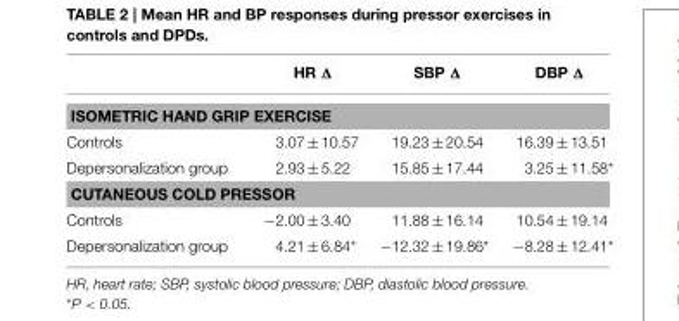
<table><thead><tr><td></td><td>HR Δ</td><td>SBP Δ</td><td>DBP Δ</td></tr></thead><tbody><tr><td colspan="4">ISOMETRIC HAND GRIP EXERCISE</td></tr><tr><td>Controls</td><td>3.07 ± 10.57</td><td>19.23 ± 20.54</td><td>16.39 ± 13.51</td></tr><tr><td>Depersonalization group</td><td>2.93 ± 5.22</td><td>15.85 ± 17.44</td><td>3.25 ± 11.58*</td></tr><tr><td colspan="4">CUTANEOUS COLD PRESSOR</td></tr><tr><td>Controls</td><td>−2.00 ± 3.40</td><td>11.88 ± 16.14</td><td>10.54 ± 19.14</td></tr><tr><td>Depersonalization group</td><td>4.21 ± 6.84*</td><td>−12.32 ± 19.86*</td><td>−8.28 ± 12.41*</td></tr></tbody></table>